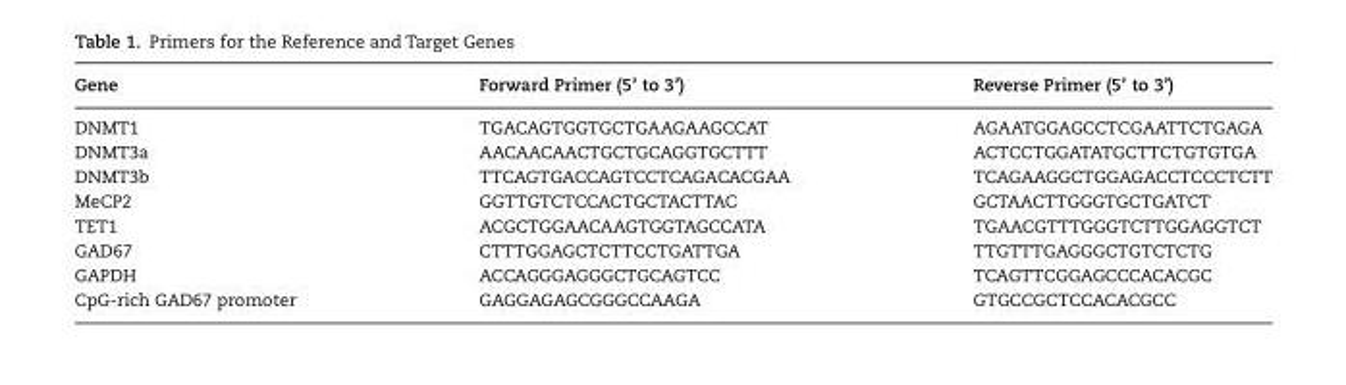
<table><thead><tr><td>Gene</td><td>Forward Primer (5’ to 3’)</td><td>Reverse Primer (5’ to 3’)</td></tr></thead><tbody><tr><td>DNMT1</td><td>TGACAGTGGTGCTGAAGAAGCCAT</td><td>AGAATGGAGCCTCGAATTCTGAGA</td></tr><tr><td>DNMT3a</td><td>AACAACAACTGCTGCAGGTGCTTT</td><td>ACTCCTGGATATGCTTCTGTGTGA</td></tr><tr><td>DNMT3b</td><td>TTCAGTGACCAGTCCTCAGACACGAA</td><td>TCAGAAGGCTGGAGACCTCCCTCTT</td></tr><tr><td>MeCP2</td><td>GGTTGTCTCCACTGCTACTTAC</td><td>GCTAACTTGGGTGCTGATCT</td></tr><tr><td>TET1</td><td>ACGCTGGAACAAGTGGTAGCCATA</td><td>TGAACGTTTGGGTCTTGGAGGTCT</td></tr><tr><td>GAD67</td><td>CTTTGGAGCTCTTCCTGATTGA</td><td>TTGTTTGAGGGCTGTCTCTG</td></tr><tr><td>GAPDH</td><td>ACCAGGGAGGGCTGCAGTCC</td><td>TCAGTTCGGAGCCCACACGC</td></tr><tr><td>CpG-rich GAD67 promoter</td><td>GAGGAGAGCGGGCCAAGA</td><td>GTGCCGCTCCACACGCC</td></tr></tbody></table>